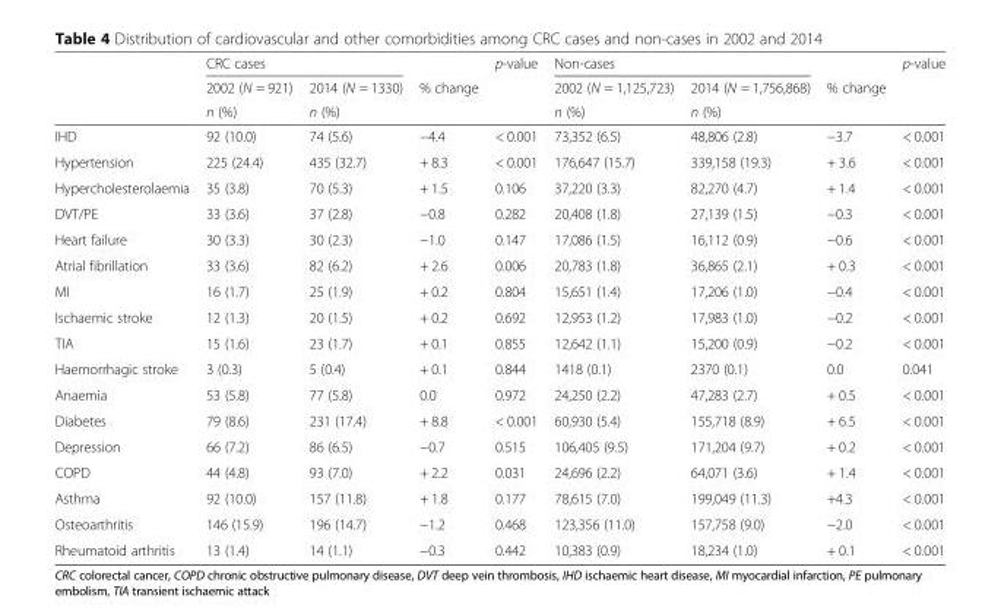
<table><thead><tr><td rowspan="3"></td><td colspan="2">CRC cases</td><td rowspan="3">% change</td><td rowspan="3">p-value</td><td colspan="2">Non-cases</td><td rowspan="3">% change</td><td rowspan="3">p-value</td></tr><tr><td rowspan="2">2002 (N = 921) n (%)</td><td rowspan="2">2014 (N = 1330) n (%)</td><td rowspan="2">2002 (N = 1,125,723) n (%)</td><td rowspan="2">2014 (N = 1,756,868) n (%)</td></tr><tr></tr></thead><tbody><tr><td>IHD</td><td>92 (10.0)</td><td>74 (5.6)</td><td>−4.4</td><td>&lt; 0.001</td><td>73,352 (6.5)</td><td>48,806 (2.8)</td><td>−3.7</td><td>&lt; 0.001</td></tr><tr><td>Hypertension</td><td>225 (24.4)</td><td>435 (32.7)</td><td>+ 8.3</td><td>&lt; 0.001</td><td>176,647 (15.7)</td><td>339,158 (19.3)</td><td>+ 3.6</td><td>&lt; 0.001</td></tr><tr><td>Hypercholesterolaemia</td><td>35 (3.8)</td><td>70 (5.3)</td><td>+ 1.5</td><td>0.106</td><td>37,220 (3.3)</td><td>82,270 (4.7)</td><td>+ 1.4</td><td>&lt; 0.001</td></tr><tr><td>DVT/PE</td><td>33 (3.6)</td><td>37 (2.8)</td><td>−0.8</td><td>0.282</td><td>20,408 (1.8)</td><td>27,139 (1.5)</td><td>−0.3</td><td>&lt; 0.001</td></tr><tr><td>Heart failure</td><td>30 (3.3)</td><td>30 (2.3)</td><td>−1.0</td><td>0.147</td><td>17,086 (1.5)</td><td>16,112 (0.9)</td><td>−0.6</td><td>&lt; 0.001</td></tr><tr><td>Atrial fibrillation</td><td>33 (3.6)</td><td>82 (6.2)</td><td>+ 2.6</td><td>0.006</td><td>20,783 (1.8)</td><td>36,865 (2.1)</td><td>+ 0.3</td><td>&lt; 0.001</td></tr><tr><td>MI</td><td>16 (1.7)</td><td>25 (1.9)</td><td>+ 0.2</td><td>0.804</td><td>15,651 (1.4)</td><td>17,206 (1.0)</td><td>−0.4</td><td>&lt; 0.001</td></tr><tr><td>Ischaemic stroke</td><td>12 (1.3)</td><td>20 (1.5)</td><td>+ 0.2</td><td>0.692</td><td>12,953 (1.2)</td><td>17,983 (1.0)</td><td>−0.2</td><td>&lt; 0.001</td></tr><tr><td>TIA</td><td>15 (1.6)</td><td>23 (1.7)</td><td>+ 0.1</td><td>0.855</td><td>12,642 (1.1)</td><td>15,200 (0.9)</td><td>−0.2</td><td>&lt; 0.001</td></tr><tr><td>Haemorrhagic stroke</td><td>3 (0.3)</td><td>5 (0.4)</td><td>+ 0.1</td><td>0.844</td><td>1418 (0.1)</td><td>2370 (0.1)</td><td>0.0</td><td>0.041</td></tr><tr><td>Anaemia</td><td>53 (5.8)</td><td>77 (5.8)</td><td>0.0</td><td>0.972</td><td>24,250 (2.2)</td><td>47,283 (2.7)</td><td>+ 0.5</td><td>&lt; 0.001</td></tr><tr><td>Diabetes</td><td>79 (8.6)</td><td>231 (17.4)</td><td>+ 8.8</td><td>&lt; 0.001</td><td>60,930 (5.4)</td><td>155,718 (8.9)</td><td>+ 6.5</td><td>&lt; 0.001</td></tr><tr><td>Depression</td><td>66 (7.2)</td><td>86 (6.5)</td><td>−0.7</td><td>0.515</td><td>106,405 (9.5)</td><td>171,204 (9.7)</td><td>+ 0.2</td><td>&lt; 0.001</td></tr><tr><td>COPD</td><td>44 (4.8)</td><td>93 (7.0)</td><td>+ 2.2</td><td>0.031</td><td>24,696 (2.2)</td><td>64,071 (3.6)</td><td>+ 1.4</td><td>&lt; 0.001</td></tr><tr><td>Asthma</td><td>92 (10.0)</td><td>157 (11.8)</td><td>+ 1.8</td><td>0.177</td><td>78,615 (7.0)</td><td>199,049 (11.3)</td><td>+4.3</td><td>&lt; 0.001</td></tr><tr><td>Osteoarthritis</td><td>146 (15.9)</td><td>196 (14.7)</td><td>−1.2</td><td>0.468</td><td>123,356 (11.0)</td><td>157,758 (9.0)</td><td>−2.0</td><td>&lt; 0.001</td></tr><tr><td>Rheumatoid arthritis</td><td>13 (1.4)</td><td>14 (1.1)</td><td>−0.3</td><td>0.442</td><td>10,383 (0.9)</td><td>18,234 (1.0)</td><td>+ 0.1</td><td>&lt; 0.001</td></tr></tbody></table>